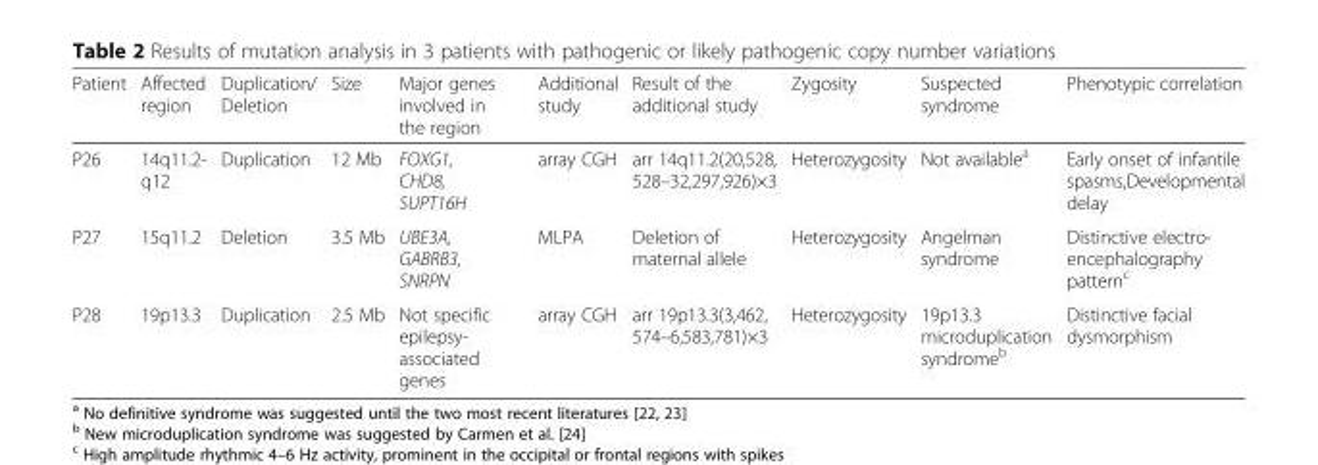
<table><thead><tr><td>Patient</td><td>Affected region</td><td>Duplication/ Deletion</td><td>Size</td><td>Major genes involved in the region</td><td>Additional study</td><td>Result of the additional study</td><td>Zygosity</td><td>Suspected syndrome</td><td>Phenotypic correlation</td></tr></thead><tbody><tr><td>P26</td><td>14q11.2- q12</td><td>Duplication</td><td>12 Mb</td><td>FOXG1, CHD8, SUPT16H</td><td>array CGH</td><td>arr 14q11.2(20,528, 528–32,297,926)×3</td><td>Heterozygosity</td><td>Not available<sup>a</sup></td><td>Early onset of infantile spasms,Developmental delay</td></tr><tr><td>P27</td><td>15q11.2</td><td>Deletion</td><td>3.5 Mb</td><td>UBE3A, GABRB3, SNRPN</td><td>MLPA</td><td>Deletion of maternal allele</td><td>Heterozygosity</td><td>Angelman syndrome</td><td>Distinctive electro- encephalography pattern<sup>c</sup></td></tr><tr><td>P28</td><td>19p13.3</td><td>Duplication</td><td>2.5 Mb</td><td>Not specific epilepsy- associated genes</td><td>array CGH</td><td>arr 19p13.3(3,462, 574–6,583,781)×3</td><td>Heterozygosity</td><td>19p13.3 microduplication syndrome<sup>b</sup></td><td>Distinctive facial dysmorphism</td></tr></tbody></table>